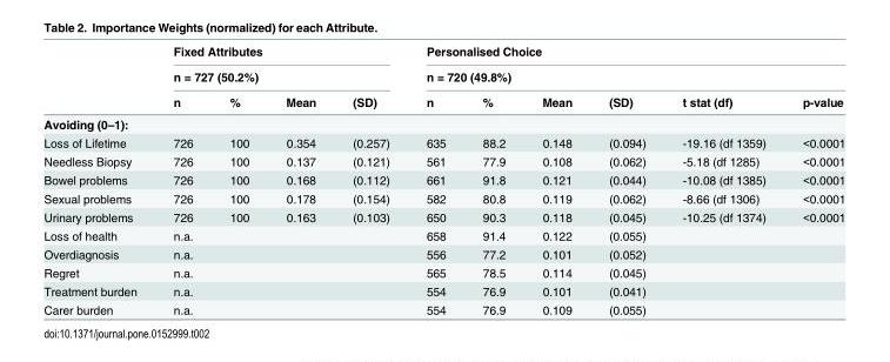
<table><thead><tr><td rowspan="3"></td><td rowspan="2" colspan="4">Fixed Attributes n = 727 (50.2%)</td><td rowspan="2" colspan="6">Personalised Choice n = 720 (49.8%)</td></tr><tr></tr><tr><td>n</td><td>%</td><td>Mean</td><td>(SD)</td><td>n</td><td>%</td><td>Mean</td><td>(SD)</td><td>t stat (df)</td><td>p-value</td></tr></thead><tbody><tr><td colspan="11">Avoiding (0–1):</td></tr><tr><td>Loss of Lifetime</td><td>726</td><td>100</td><td>0.354</td><td>(0.257)</td><td>635</td><td>88.2</td><td>0.148</td><td>(0.094)</td><td>-19.16 (df 1359)</td><td>&lt;0.0001</td></tr><tr><td>Needless Biopsy</td><td>726</td><td>100</td><td>0.137</td><td>(0.121)</td><td>561</td><td>77.9</td><td>0.108</td><td>(0.062)</td><td>-5.18 (df 1285)</td><td>&lt;0.0001</td></tr><tr><td>Bowel problems</td><td>726</td><td>100</td><td>0.168</td><td>(0.112)</td><td>661</td><td>91.8</td><td>0.121</td><td>(0.044)</td><td>-10.08 (df 1385)</td><td>&lt;0.0001</td></tr><tr><td>Sexual problems</td><td>726</td><td>100</td><td>0.178</td><td>(0.154)</td><td>582</td><td>80.8</td><td>0.119</td><td>(0.062)</td><td>-8.66 (df 1306)</td><td>&lt;0.0001</td></tr><tr><td>Urinary problems</td><td>726</td><td>100</td><td>0.163</td><td>(0.103)</td><td>650</td><td>90.3</td><td>0.118</td><td>(0.045)</td><td>-10.25 (df 1374)</td><td>&lt;0.0001</td></tr><tr><td>Loss of health</td><td>n.a.</td><td></td><td></td><td></td><td>658</td><td>91.4</td><td>0.122</td><td>(0.055)</td><td></td><td></td></tr><tr><td>Overdiagnosis</td><td>n.a.</td><td></td><td></td><td></td><td>556</td><td>77.2</td><td>0.101</td><td>(0.052)</td><td></td><td></td></tr><tr><td>Regret</td><td>n.a.</td><td></td><td></td><td></td><td>565</td><td>78.5</td><td>0.114</td><td>(0.045)</td><td></td><td></td></tr><tr><td>Treatment burden</td><td>n.a.</td><td></td><td></td><td></td><td>554</td><td>76.9</td><td>0.101</td><td>(0.041)</td><td></td><td></td></tr><tr><td>Carer burden</td><td>n.a.</td><td></td><td></td><td></td><td>554</td><td>76.9</td><td>0.109</td><td>(0.055)</td><td></td><td></td></tr></tbody></table>